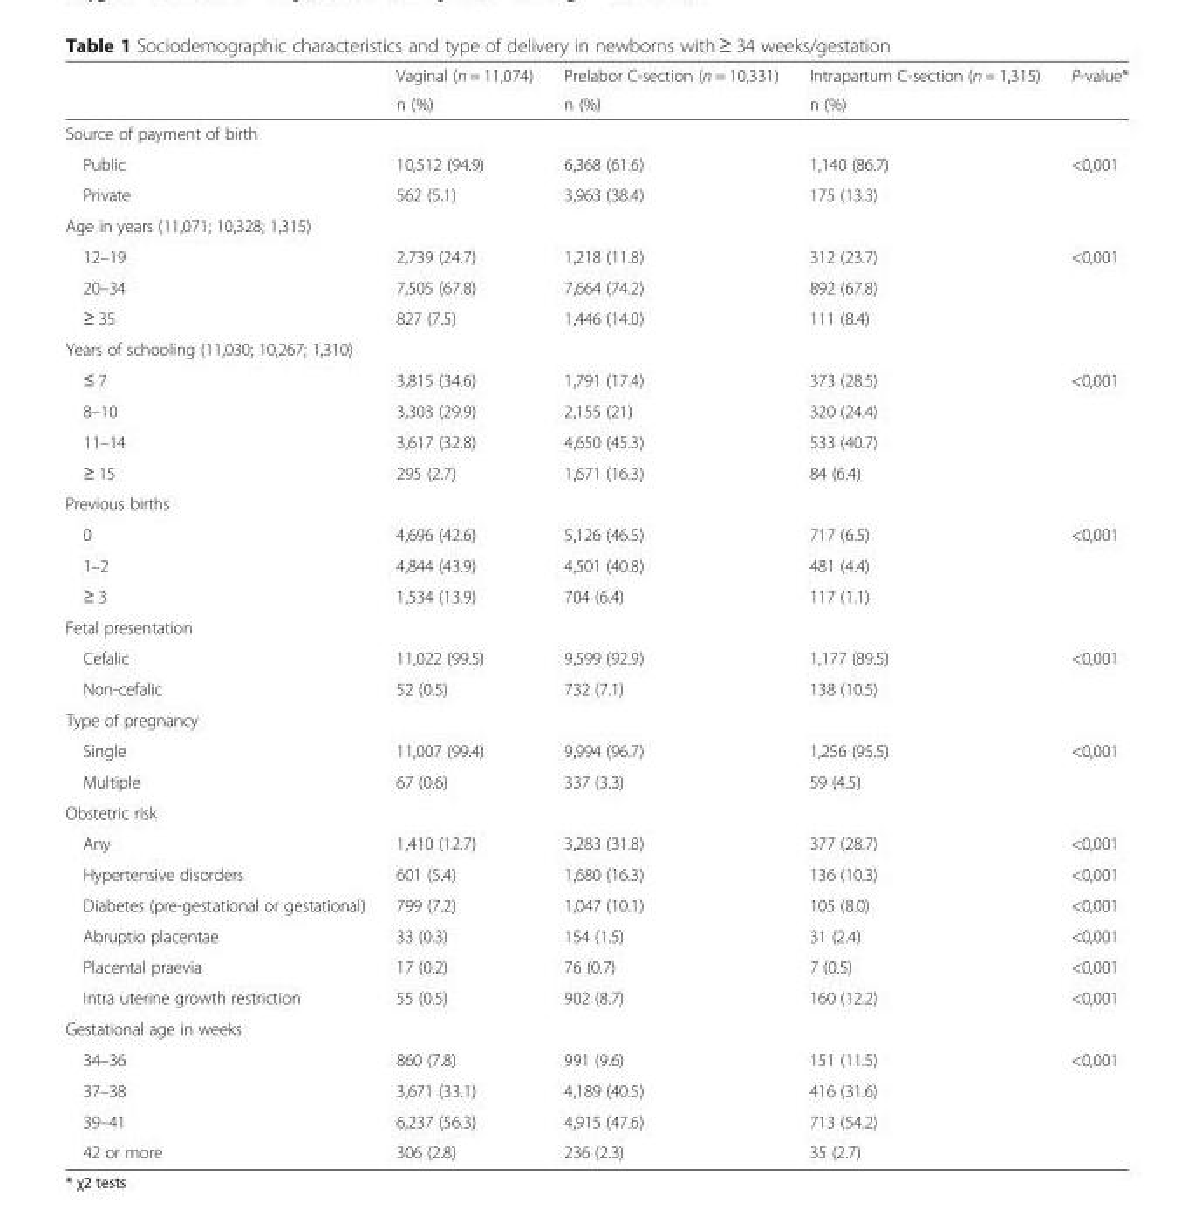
<table><thead><tr><td rowspan="2"></td><td rowspan="2">Vaginal (n = 11,074) n (%)</td><td rowspan="2">Prelabor C-section (n = 10,331) n (%)</td><td rowspan="2">Intrapartum C-section (n = 1,315) n (%)</td><td rowspan="2">P-value*</td></tr><tr></tr></thead><tbody><tr><td colspan="5">Source of payment of birth</td></tr><tr><td>Public</td><td>10,512 (94.9)</td><td>6,368 (61.6)</td><td>1,140 (86.7)</td><td>&lt;0,001</td></tr><tr><td>Private</td><td>562 (5.1)</td><td>3,963 (38.4)</td><td>175 (13.3)</td><td></td></tr><tr><td colspan="5">Age in years (11,071; 10,328; 1,315)</td></tr><tr><td>12–19</td><td>2,739 (24.7)</td><td>1,218 (11.8)</td><td>312 (23.7)</td><td>&lt;0,001</td></tr><tr><td>20–34</td><td>7,505 (67.8)</td><td>7,664 (74.2)</td><td>892 (67.8)</td><td></td></tr><tr><td>≥ 35</td><td>827 (7.5)</td><td>1,446 (14.0)</td><td>111 (8.4)</td><td></td></tr><tr><td colspan="5">Years of schooling (11,030; 10,267; 1,310)</td></tr><tr><td>≤ 7</td><td>3,815 (34.6)</td><td>1,791 (17.4)</td><td>373 (28.5)</td><td>&lt;0,001</td></tr><tr><td>8–10</td><td>3,303 (29.9)</td><td>2,155 (21)</td><td>320 (24.4)</td><td></td></tr><tr><td>11–14</td><td>3,617 (32.8)</td><td>4,650 (45.3)</td><td>533 (40.7)</td><td></td></tr><tr><td>≥ 15</td><td>295 (2.7)</td><td>1,671 (16.3)</td><td>84 (6.4)</td><td></td></tr><tr><td colspan="5">Previous births</td></tr><tr><td>0</td><td>4,696 (42.6)</td><td>5,126 (46.5)</td><td>717 (6.5)</td><td>&lt;0,001</td></tr><tr><td>1–2</td><td>4,844 (43.9)</td><td>4,501 (40.8)</td><td>481 (4.4)</td><td></td></tr><tr><td>≥ 3</td><td>1,534 (13.9)</td><td>704 (6.4)</td><td>117 (1.1)</td><td></td></tr><tr><td colspan="5">Fetal presentation</td></tr><tr><td>Cefalic</td><td>11,022 (99.5)</td><td>9,599 (92.9)</td><td>1,177 (89.5)</td><td>&lt;0,001</td></tr><tr><td>Non-cefalic</td><td>52 (0.5)</td><td>732 (7.1)</td><td>138 (10.5)</td><td></td></tr><tr><td colspan="5">Type of pregnancy</td></tr><tr><td>Single</td><td>11,007 (99.4)</td><td>9,994 (96.7)</td><td>1,256 (95.5)</td><td>&lt;0,001</td></tr><tr><td>Multiple</td><td>67 (0.6)</td><td>337 (3.3)</td><td>59 (4.5)</td><td></td></tr><tr><td colspan="5">Obstetric risk</td></tr><tr><td>Any</td><td>1,410 (12.7)</td><td>3,283 (31.8)</td><td>377 (28.7)</td><td>&lt;0,001</td></tr><tr><td>Hypertensive disorders</td><td>601 (5.4)</td><td>1,680 (16.3)</td><td>136 (10.3)</td><td>&lt;0,001</td></tr><tr><td>Diabetes (pre-gestational or gestational)</td><td>799 (7.2)</td><td>1,047 (10.1)</td><td>105 (8.0)</td><td>&lt;0,001</td></tr><tr><td>Abruptio placentae</td><td>33 (0.3)</td><td>154 (1.5)</td><td>31 (2.4)</td><td>&lt;0,001</td></tr><tr><td>Placental praevia</td><td>17 (0.2)</td><td>76 (0.7)</td><td>7 (0.5)</td><td>&lt;0,001</td></tr><tr><td>Intra uterine growth restriction</td><td>55 (0.5)</td><td>902 (8.7)</td><td>160 (12.2)</td><td>&lt;0,001</td></tr><tr><td colspan="5">Gestational age in weeks</td></tr><tr><td>34–36</td><td>860 (7.8)</td><td>991 (9.6)</td><td>151 (11.5)</td><td>&lt;0,001</td></tr><tr><td>37–38</td><td>3,671 (33.1)</td><td>4,189 (40.5)</td><td>416 (31.6)</td><td></td></tr><tr><td>39–41</td><td>6,237 (56.3)</td><td>4,915 (47.6)</td><td>713 (54.2)</td><td></td></tr><tr><td>42 or more</td><td>306 (2.8)</td><td>236 (2.3)</td><td>35 (2.7)</td><td></td></tr></tbody></table>